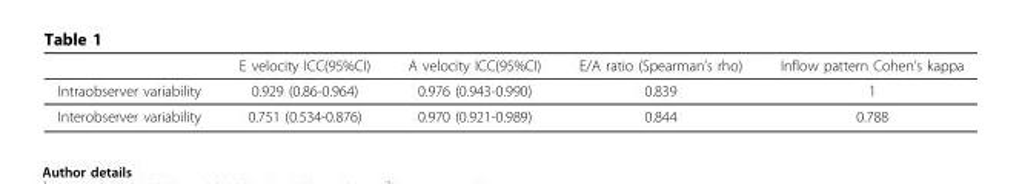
<table><thead><tr><td></td><td>E velocity ICC(95%CI)</td><td>A velocity ICC(95%CI)</td><td>E/A ratio (Spearman’s rho)</td><td>Inflow pattern Cohen’s kappa</td></tr></thead><tbody><tr><td>Intraobserver variability</td><td>0.929 (0.86-0.964)</td><td>0.976 (0.943-0.990)</td><td>0.839</td><td>1</td></tr><tr><td>Interobserver variability</td><td>0.751 (0.534-0.876)</td><td>0.970 (0.921-0.989)</td><td>0.844</td><td>0.788</td></tr></tbody></table>